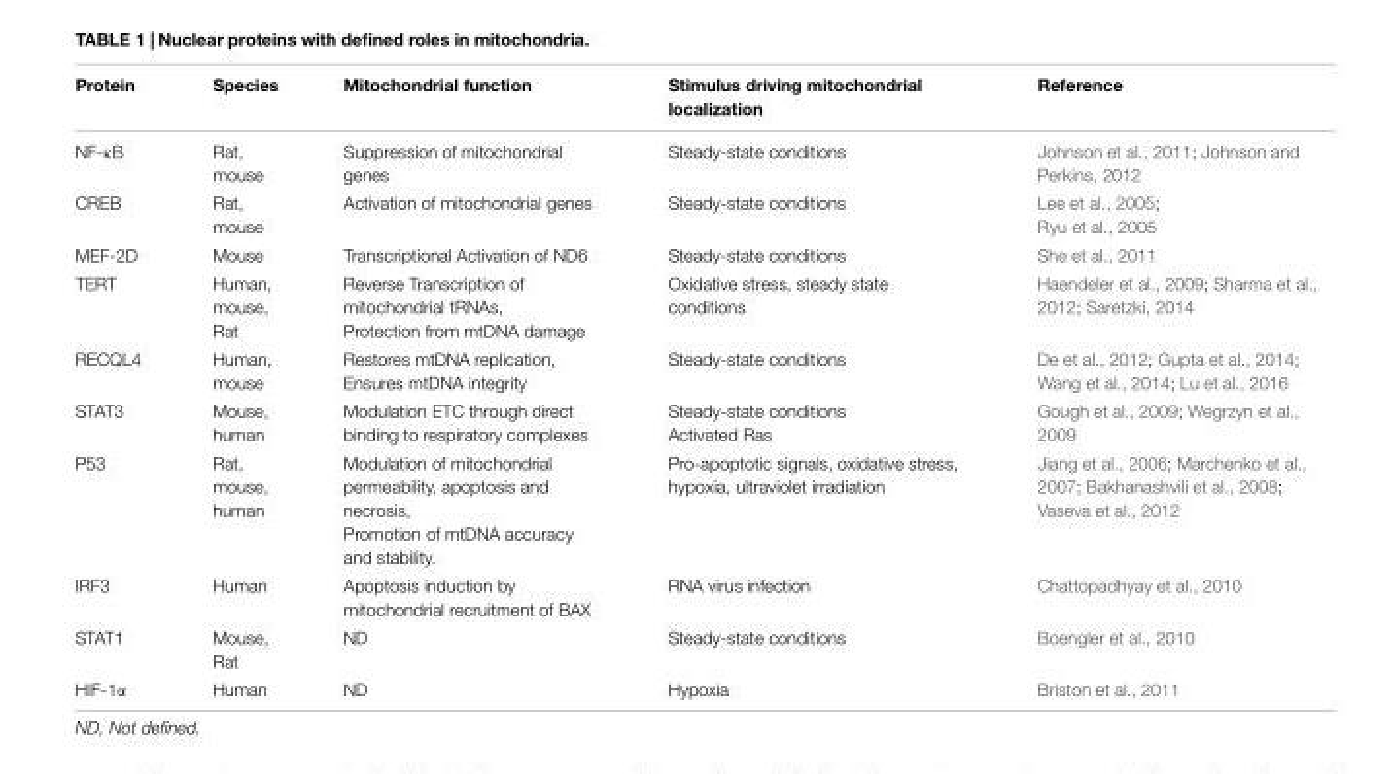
<table><thead><tr><td>Protein</td><td>Species</td><td>Mitochondrial function</td><td>Stimulus driving mitochondrial localization</td><td>Reference</td></tr></thead><tbody><tr><td>NF-κB</td><td>Rat, mouse</td><td>Suppression of mitochondrial genes</td><td>Steady-state conditions</td><td>Johnson et al., 2011; Johnson and Perkins, 2012</td></tr><tr><td>CREB</td><td>Rat, mouse</td><td>Activation of mitochondrial genes</td><td>Steady-state conditions</td><td>Lee et al., 2005; Ryu et al., 2005</td></tr><tr><td>MEF-2D</td><td>Mouse</td><td>Transcriptional Activation of ND6</td><td>Steady-state conditions</td><td>She et al., 2011</td></tr><tr><td>TERT</td><td>Human, mouse, Rat</td><td>Reverse Transcription of mitochondrial tRNAs, Protection from mtDNA damage</td><td>Oxidative stress, steady state conditions</td><td>Haendeler et al., 2009; Sharma et al., 2012; Saretzki, 2014</td></tr><tr><td>RECQL4</td><td>Human, mouse</td><td>Restores mtDNA replication, Ensures mtDNA integrity</td><td>Steady-state conditions</td><td>De et al., 2012; Gupta et al., 2014; Wang et al., 2014; Lu et al., 2016</td></tr><tr><td>STAT3</td><td>Mouse, human</td><td>Modulation ETC through direct binding to respiratory complexes</td><td>Steady-state conditions Activated Ras</td><td>Gough et al., 2009; Wegrzyn et al., 2009</td></tr><tr><td>P53</td><td>Rat, mouse, human</td><td>Modulation of mitochondrial permeability, apoptosis and necrosis, Promotion of mtDNA accuracy and stability.</td><td>Pro-apoptotic signals, oxidative stress, hypoxia, ultraviolet irradiation</td><td>Jiang et al., 2006; Marchenko et al., 2007; Bakhanashvili et al., 2008; Vaseva et al., 2012</td></tr><tr><td>IRF3</td><td>Human</td><td>Apoptosis induction by mitochondrial recruitment of BAX</td><td>RNA virus infection</td><td>Chattopadhyay et al., 2010</td></tr><tr><td>STAT1</td><td>Mouse, Rat</td><td>ND</td><td>Steady-state conditions</td><td>Boengler et al., 2010</td></tr><tr><td>HIF-1α</td><td>Human</td><td>ND</td><td>Hypoxia</td><td>Briston et al., 2011</td></tr></tbody></table>